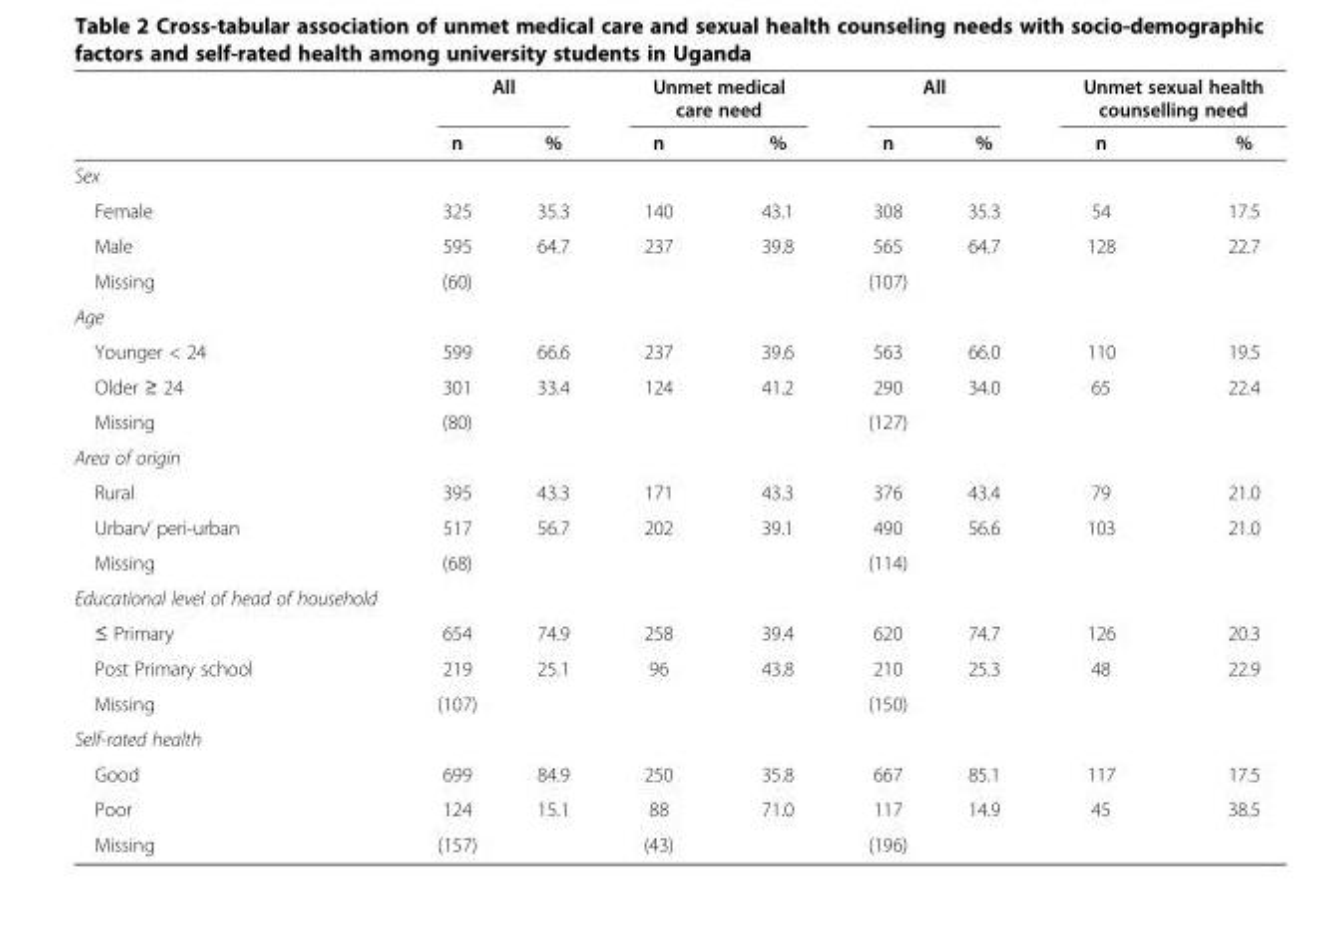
<table><thead><tr><td rowspan="2"></td><td colspan="2">All</td><td colspan="2">Unmet medical care need</td><td colspan="2">All</td><td colspan="2">Unmet sexual health counselling need</td></tr><tr><td>n</td><td>%</td><td>n</td><td>%</td><td>n</td><td>%</td><td>n</td><td>%</td></tr></thead><tbody><tr><td colspan="9">Sex</td></tr><tr><td>Female</td><td>325</td><td>35.3</td><td>140</td><td>43.1</td><td>308</td><td>35.3</td><td>54</td><td>17.5</td></tr><tr><td>Male</td><td>595</td><td>64.7</td><td>237</td><td>39.8</td><td>565</td><td>64.7</td><td>128</td><td>22.7</td></tr><tr><td>Missing</td><td>(60)</td><td></td><td></td><td></td><td>(107)</td><td></td><td></td><td></td></tr><tr><td colspan="9">Age</td></tr><tr><td>Younger &lt; 24</td><td>599</td><td>66.6</td><td>237</td><td>39.6</td><td>563</td><td>66.0</td><td>110</td><td>19.5</td></tr><tr><td>Older ≥ 24</td><td>301</td><td>33.4</td><td>124</td><td>41.2</td><td>290</td><td>34.0</td><td>65</td><td>22.4</td></tr><tr><td>Missing</td><td>(80)</td><td></td><td></td><td></td><td>(127)</td><td></td><td></td><td></td></tr><tr><td colspan="9">Area of origin</td></tr><tr><td>Rural</td><td>395</td><td>43.3</td><td>171</td><td>43.3</td><td>376</td><td>43.4</td><td>79</td><td>21.0</td></tr><tr><td>Urban/ peri-urban</td><td>517</td><td>56.7</td><td>202</td><td>39.1</td><td>490</td><td>56.6</td><td>103</td><td>21.0</td></tr><tr><td>Missing</td><td>(68)</td><td></td><td></td><td></td><td>(114)</td><td></td><td></td><td></td></tr><tr><td colspan="9">Educational level of head of household</td></tr><tr><td>≤ Primary</td><td>654</td><td>74.9</td><td>258</td><td>39.4</td><td>620</td><td>74.7</td><td>126</td><td>20.3</td></tr><tr><td>Post Primary school</td><td>219</td><td>25.1</td><td>96</td><td>43.8</td><td>210</td><td>25.3</td><td>48</td><td>22.9</td></tr><tr><td>Missing</td><td>(107)</td><td></td><td></td><td></td><td>(150)</td><td></td><td></td><td></td></tr><tr><td colspan="9">Self-rated health</td></tr><tr><td>Good</td><td>699</td><td>84.9</td><td>250</td><td>35.8</td><td>667</td><td>85.1</td><td>117</td><td>17.5</td></tr><tr><td>Poor</td><td>124</td><td>15.1</td><td>88</td><td>71.0</td><td>117</td><td>14.9</td><td>45</td><td>38.5</td></tr><tr><td>Missing</td><td>(157)</td><td></td><td>(43)</td><td></td><td>(196)</td><td></td><td></td><td></td></tr></tbody></table>